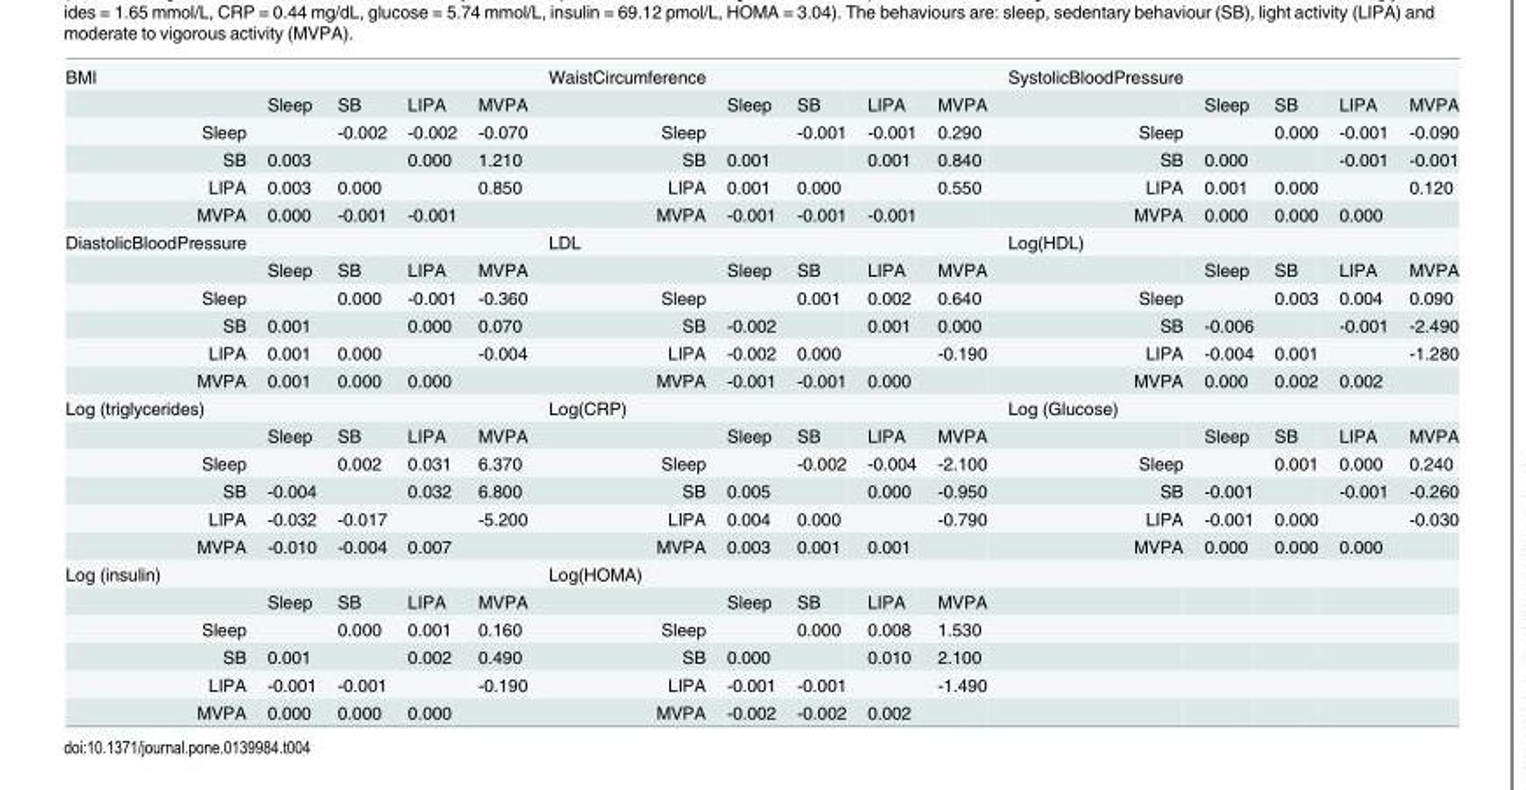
<table><tbody><tr><td rowspan="2">BMI</td><td></td><td></td><td></td><td></td><td>WaistCircumference</td><td></td><td></td><td></td><td></td><td>SystolicBloodPressure</td><td></td><td></td><td></td><td></td></tr><tr><td>Sleep</td><td>SB</td><td>LIPA</td><td>MVPA</td><td></td><td>Sleep</td><td>SB</td><td>LIPA</td><td>MVPA</td><td></td><td>Sleep</td><td>SB</td><td>LIPA</td><td>MVPA</td></tr><tr><td>Sleep</td><td></td><td>-0.002</td><td>-0.002</td><td>-0.070</td><td>Sleep</td><td></td><td>-0.001</td><td>-0.001</td><td>0.290</td><td>Sleep</td><td></td><td>0.000</td><td>-0.001</td><td>-0.090</td></tr><tr><td>SB</td><td>0.003</td><td></td><td>0.000</td><td>1.210</td><td>SB</td><td>0.001</td><td></td><td>0.001</td><td>0.840</td><td>SB</td><td>0.000</td><td></td><td>-0.001</td><td>-0.001</td></tr><tr><td>LIPA</td><td>0.003</td><td>0.000</td><td></td><td>0.850</td><td>LIPA</td><td>0.001</td><td>0.000</td><td></td><td>0.550</td><td>LIPA</td><td>0.001</td><td>0.000</td><td></td><td>0.120</td></tr><tr><td>MVPA</td><td>0.000</td><td>-0.001</td><td>-0.001</td><td></td><td>MVPA</td><td>-0.001</td><td>-0.001</td><td>-0.001</td><td></td><td>MVPA</td><td>0.000</td><td>0.000</td><td>0.000</td><td></td></tr><tr><td rowspan="2">DiastolicBloodPressure</td><td></td><td></td><td></td><td></td><td>LDL</td><td></td><td></td><td></td><td></td><td>Log(HDL)</td><td></td><td></td><td></td><td></td></tr><tr><td>Sleep</td><td>SB</td><td>LIPA</td><td>MVPA</td><td></td><td>Sleep</td><td>SB</td><td>LIPA</td><td>MVPA</td><td></td><td>Sleep</td><td>SB</td><td>LIPA</td><td>MVPA</td></tr><tr><td>Sleep</td><td></td><td>0.000</td><td>-0.001</td><td>-0.360</td><td>Sleep</td><td></td><td>0.001</td><td>0.002</td><td>0.640</td><td>Sleep</td><td></td><td>0.003</td><td>0.004</td><td>0.090</td></tr><tr><td>SB</td><td>0.001</td><td></td><td>0.000</td><td>0.070</td><td>SB</td><td>-0.002</td><td></td><td>0.001</td><td>0.000</td><td>SB</td><td>-0.006</td><td></td><td>-0.001</td><td>-2.490</td></tr><tr><td>LIPA</td><td>0.001</td><td>0.000</td><td></td><td>-0.004</td><td>LIPA</td><td>-0.002</td><td>0.000</td><td></td><td>-0.190</td><td>LIPA</td><td>-0.004</td><td>0.001</td><td></td><td>-1.280</td></tr><tr><td>MVPA</td><td>0.001</td><td>0.000</td><td>0.000</td><td></td><td>MVPA</td><td>-0.001</td><td>-0.001</td><td>0.000</td><td></td><td>MVPA</td><td>0.000</td><td>0.002</td><td>0.002</td><td></td></tr><tr><td rowspan="2">Log (triglycerides)</td><td></td><td></td><td></td><td></td><td>Log(CRP)</td><td></td><td></td><td></td><td></td><td>Log (Glucose)</td><td></td><td></td><td></td><td></td></tr><tr><td>Sleep</td><td>SB</td><td>LIPA</td><td>MVPA</td><td></td><td>Sleep</td><td>SB</td><td>LIPA</td><td>MVPA</td><td></td><td>Sleep</td><td>SB</td><td>LIPA</td><td>MVPA</td></tr><tr><td>Sleep</td><td></td><td>0.002</td><td>0.031</td><td>6.370</td><td>Sleep</td><td></td><td>-0.002</td><td>-0.004</td><td>-2.100</td><td>Sleep</td><td></td><td>0.001</td><td>0.000</td><td>0.240</td></tr><tr><td>SB</td><td>-0.004</td><td></td><td>0.032</td><td>6.800</td><td>SB</td><td>0.005</td><td></td><td>0.000</td><td>-0.950</td><td>SB</td><td>-0.001</td><td></td><td>-0.001</td><td>-0.260</td></tr><tr><td>LIPA</td><td>-0.032</td><td>-0.017</td><td></td><td>-5.200</td><td>LIPA</td><td>0.004</td><td>0.000</td><td></td><td>-0.790</td><td>LIPA</td><td>-0.001</td><td>0.000</td><td></td><td>-0.030</td></tr><tr><td>MVPA</td><td>-0.010</td><td>-0.004</td><td>0.007</td><td></td><td>MVPA</td><td>0.003</td><td>0.001</td><td>0.001</td><td></td><td>MVPA</td><td>0.000</td><td>0.000</td><td>0.000</td><td></td></tr><tr><td rowspan="2">Log (insulin)</td><td></td><td></td><td></td><td></td><td>Log(HOMA)</td><td></td><td></td><td></td><td></td><td></td><td></td><td></td><td></td><td></td></tr><tr><td>Sleep</td><td>SB</td><td>LIPA</td><td>MVPA</td><td></td><td>Sleep</td><td>SB</td><td>LIPA</td><td>MVPA</td><td></td><td></td><td></td><td></td><td></td></tr><tr><td>Sleep</td><td></td><td>0.000</td><td>0.001</td><td>0.160</td><td>Sleep</td><td></td><td>0.000</td><td>0.008</td><td>1.530</td><td></td><td></td><td></td><td></td><td></td></tr><tr><td>SB</td><td>0.001</td><td></td><td>0.002</td><td>0.490</td><td>SB</td><td>0.000</td><td></td><td>0.010</td><td>2.100</td><td></td><td></td><td></td><td></td><td></td></tr><tr><td>LIPA</td><td>-0.001</td><td>-0.001</td><td></td><td>-0.190</td><td>LIPA</td><td>-0.001</td><td>-0.001</td><td></td><td>-1.490</td><td></td><td></td><td></td><td></td><td></td></tr><tr><td>MVPA</td><td>0.000</td><td>0.000</td><td>0.000</td><td></td><td>MVPA</td><td>-0.002</td><td>-0.002</td><td>0.002</td><td></td><td></td><td></td><td></td><td></td><td></td></tr></tbody></table>